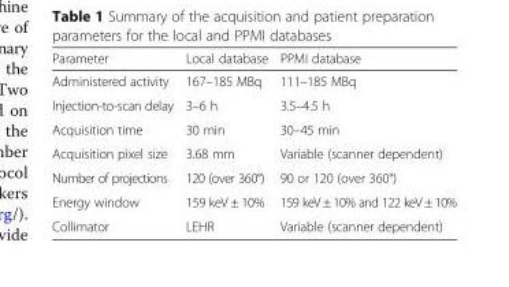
<table><thead><tr><td>Parameter</td><td>Local database</td><td>PPMI database</td></tr></thead><tbody><tr><td>Administered activity</td><td>167–185 MBq</td><td>111–185 MBq</td></tr><tr><td>Injection-to-scan delay</td><td>3–6 h</td><td>3.5–4.5 h</td></tr><tr><td>Acquisition time</td><td>30 min</td><td>30–45 min</td></tr><tr><td>Acquisition pixel size</td><td>3.68 mm</td><td>Variable (scanner dependent)</td></tr><tr><td>Number of projections</td><td>120 (over 360°)</td><td>90 or 120 (over 360°)</td></tr><tr><td>Energy window</td><td>159 keV ± 10%</td><td>159 keV ± 10% and 122 keV ± 10%</td></tr><tr><td>Collimator</td><td>LEHR</td><td>Variable (scanner dependent)</td></tr></tbody></table>